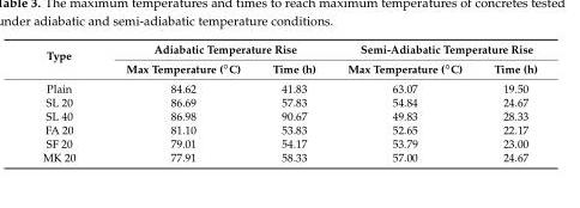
<table><thead><tr><td rowspan="2">Type</td><td colspan="2">Adiabatic Temperature Rise</td><td colspan="2">Semi-Adiabatic Temperature Rise</td></tr><tr><td>Max Temperature (◦C)</td><td>Time (h)</td><td>Max Temperature (◦C)</td><td>Time (h)</td></tr></thead><tbody><tr><td>Plain</td><td>84.62</td><td>41.83</td><td>63.07</td><td>19.50</td></tr><tr><td>SL 20</td><td>86.69</td><td>57.83</td><td>54.84</td><td>24.67</td></tr><tr><td>SL 40</td><td>86.98</td><td>90.67</td><td>49.83</td><td>28.33</td></tr><tr><td>FA 20</td><td>81.10</td><td>53.83</td><td>52.65</td><td>22.17</td></tr><tr><td>SF 20</td><td>79.01</td><td>54.17</td><td>53.79</td><td>23.00</td></tr><tr><td>MK 20</td><td>77.91</td><td>58.33</td><td>57.00</td><td>24.67</td></tr></tbody></table>